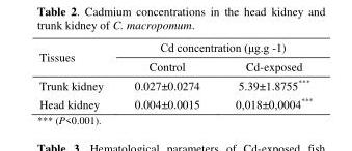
<table><thead><tr><td rowspan="2">Tissues</td><td colspan="2">Cd concentration (μg.g -1)</td></tr><tr><td>Control</td><td>Cd-exposed</td></tr></thead><tbody><tr><td>Trunk kidney</td><td>0.027±0.0274</td><td>5.39±1.8755***</td></tr><tr><td>Head kidney</td><td>0.004±0.0015</td><td>0,018±0,0004***</td></tr></tbody></table>